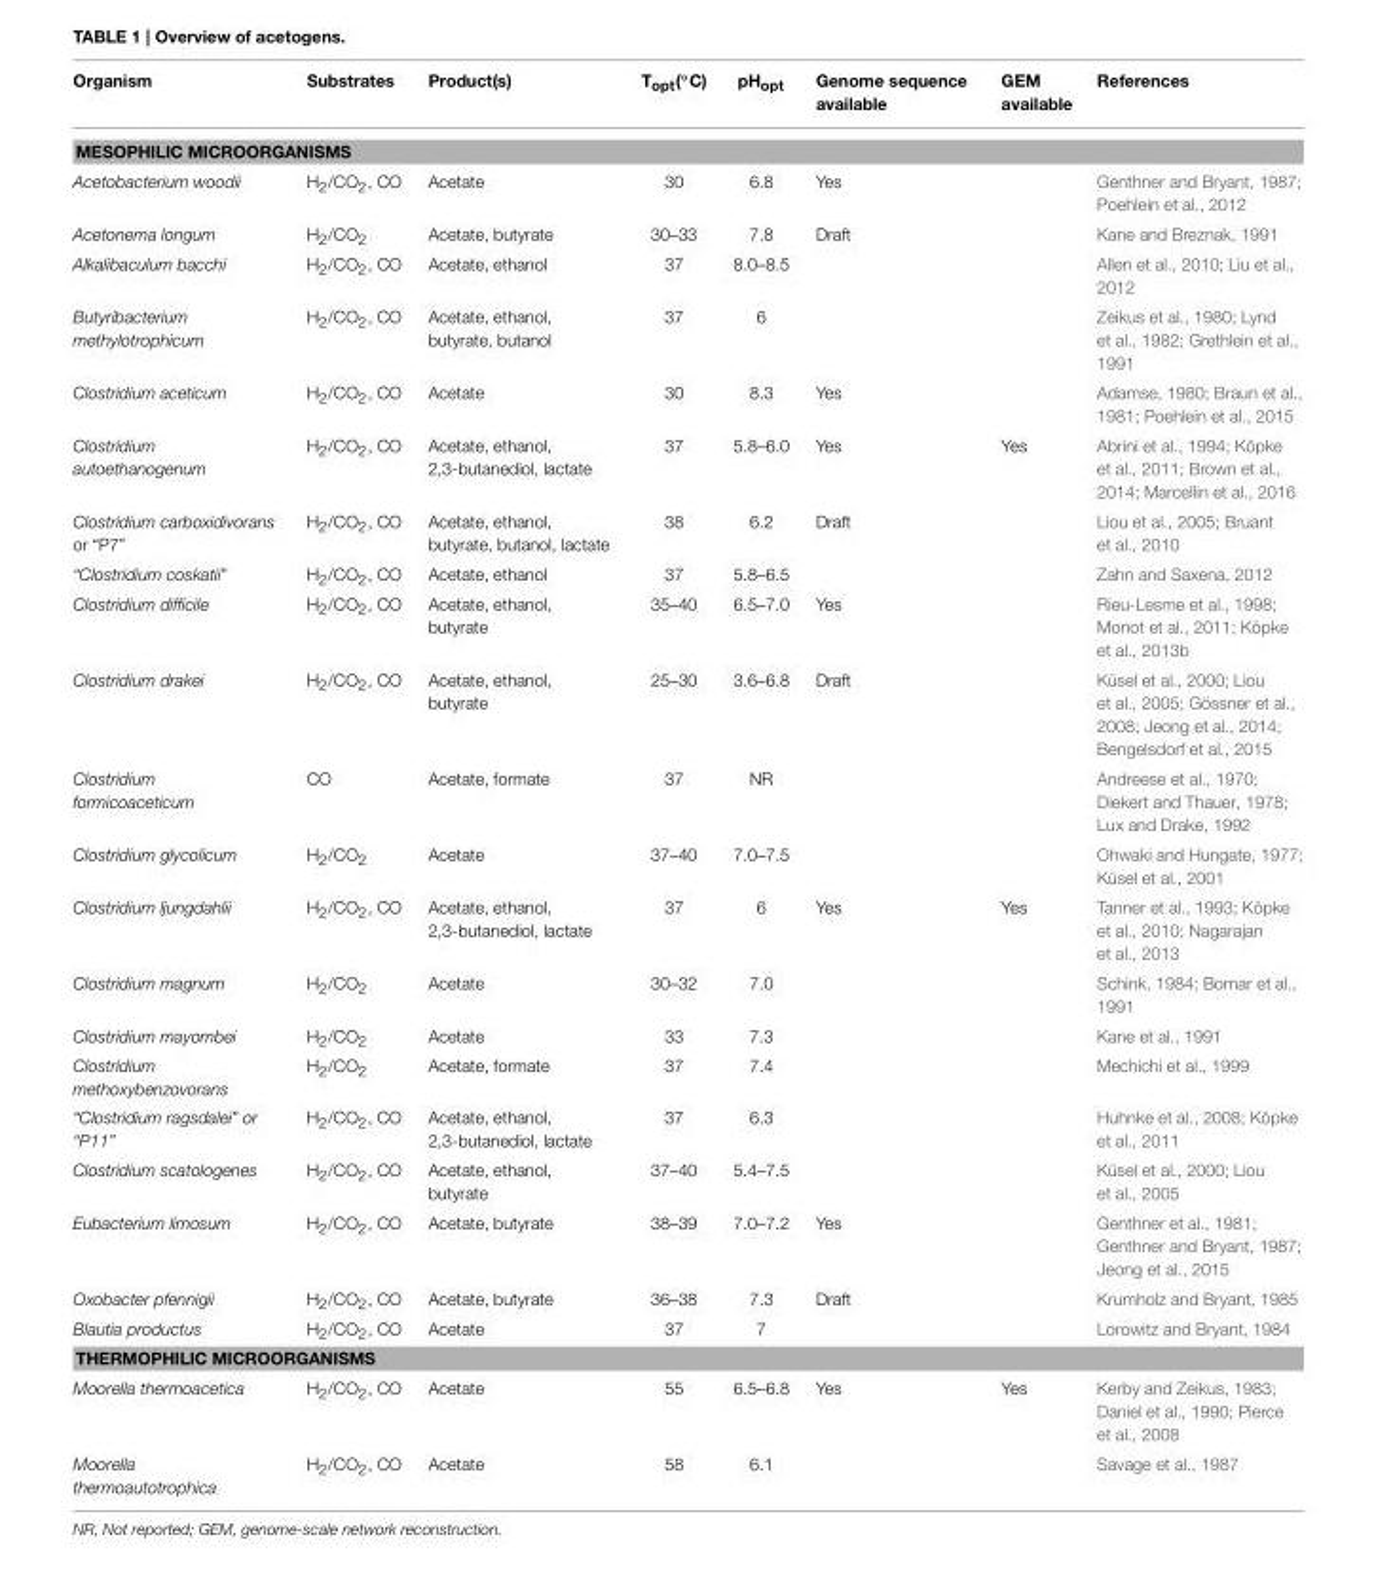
<table><thead><tr><td>Organism</td><td>Substrates</td><td>Product(s)</td><td>Topt(◦C)</td><td>pH<sub>opt</sub></td><td>Genome sequence available</td><td>GEM available</td><td>References</td></tr></thead><tbody><tr><td colspan="8">MESOPHILIC MICROORGANISMS</td></tr><tr><td>Acetobacterium woodii</td><td>H<sub>2</sub>/CO<sub>2</sub>, CO</td><td>Acetate</td><td>30</td><td>6.8</td><td>Yes</td><td></td><td>Genthner and Bryant, 1987; Poehlein et al., 2012</td></tr><tr><td>Acetonema longum</td><td>H<sub>2</sub>/CO<sub>2</sub></td><td>Acetate, butyrate</td><td>30–33</td><td>7.8</td><td>Draft</td><td></td><td>Kane and Breznak, 1991</td></tr><tr><td>Alkalibaculum bacchi</td><td>H<sub>2</sub>/CO<sub>2</sub>, CO</td><td>Acetate, ethanol</td><td>37</td><td>8.0–8.5</td><td></td><td></td><td>Allen et al., 2010; Liu et al., 2012</td></tr><tr><td>Butyribacterium methylotrophicum</td><td>H<sub>2</sub>/CO<sub>2</sub>, CO</td><td>Acetate, ethanol, butyrate, butanol</td><td>37</td><td>6</td><td></td><td></td><td>Zeikus et al., 1980; Lynd et al., 1982; Grethlein et al., 1991</td></tr><tr><td>Clostridium aceticum</td><td>H<sub>2</sub>/CO<sub>2</sub>, CO</td><td>Acetate</td><td>30</td><td>8.3</td><td>Yes</td><td></td><td>Adamse, 1980; Braun et al., 1981; Poehlein et al., 2015</td></tr><tr><td>Clostridium autoethanogenum</td><td>H<sub>2</sub>/CO<sub>2</sub>, CO</td><td>Acetate, ethanol, 2,3-butanediol, lactate</td><td>37</td><td>5.8–6.0</td><td>Yes</td><td>Yes</td><td>Abrini et al., 1994; Köpke et al., 2011; Brown et al., 2014; Marcellin et al., 2016</td></tr><tr><td>Clostridium carboxidivorans or “P7”</td><td>H<sub>2</sub>/CO<sub>2</sub>, CO</td><td>Acetate, ethanol, butyrate, butanol, lactate</td><td>38</td><td>6.2</td><td>Draft</td><td></td><td>Liou et al., 2005; Bruant et al., 2010</td></tr><tr><td>“Clostridium coskatii”</td><td>H<sub>2</sub>/CO<sub>2</sub>, CO</td><td>Acetate, ethanol</td><td>37</td><td>5.8–6.5</td><td></td><td></td><td>Zahn and Saxena, 2012</td></tr><tr><td>Clostridium difficile</td><td>H<sub>2</sub>/CO<sub>2</sub>, CO</td><td>Acetate, ethanol, butyrate</td><td>35–40</td><td>6.5–7.0</td><td>Yes</td><td></td><td>Rieu-Lesme et al., 1998; Monot et al., 2011; Köpke et al., 2013b</td></tr><tr><td>Clostridium drakei</td><td>H<sub>2</sub>/CO<sub>2</sub>, CO</td><td>Acetate, ethanol, butyrate</td><td>25–30</td><td>3.6–6.8</td><td>Draft</td><td></td><td>Küsel et al., 2000; Liou et al., 2005; Gössner et al., 2008; Jeong et al., 2014; Bengelsdorf et al., 2015</td></tr><tr><td>Clostridium formicoaceticum</td><td>CO</td><td>Acetate, formate</td><td>37</td><td>NR</td><td></td><td></td><td>Andreese et al., 1970; Diekert and Thauer, 1978; Lux and Drake, 1992</td></tr><tr><td>Clostridium glycolicum</td><td>H<sub>2</sub>/CO<sub>2</sub></td><td>Acetate</td><td>37–40</td><td>7.0–7.5</td><td></td><td></td><td>Ohwaki and Hungate, 1977; Küsel et al., 2001</td></tr><tr><td>Clostridium ljungdahlii</td><td>H<sub>2</sub>/CO<sub>2</sub>, CO</td><td>Acetate, ethanol, 2,3-butanediol, lactate</td><td>37</td><td>6</td><td>Yes</td><td>Yes</td><td>Tanner et al., 1993; Köpke et al., 2010; Nagarajan et al., 2013</td></tr><tr><td>Clostridium magnum</td><td>H<sub>2</sub>/CO<sub>2</sub></td><td>Acetate</td><td>30–32</td><td>7.0</td><td></td><td></td><td>Schink, 1984; Bomar et al., 1991</td></tr><tr><td>Clostridium mayombei</td><td>H<sub>2</sub>/CO<sub>2</sub></td><td>Acetate</td><td>33</td><td>7.3</td><td></td><td></td><td>Kane et al., 1991</td></tr><tr><td>Clostridium methoxybenzovorans</td><td>H<sub>2</sub>/CO<sub>2</sub></td><td>Acetate, formate</td><td>37</td><td>7.4</td><td></td><td></td><td>Mechichi et al., 1999</td></tr><tr><td>“Clostridium ragsdalei” or “P11”</td><td>H<sub>2</sub>/CO<sub>2</sub>, CO</td><td>Acetate, ethanol, 2,3-butanediol, lactate</td><td>37</td><td>6.3</td><td></td><td></td><td>Huhnke et al., 2008; Köpke et al., 2011</td></tr><tr><td>Clostridium scatologenes</td><td>H<sub>2</sub>/CO<sub>2</sub>, CO</td><td>Acetate, ethanol, butyrate</td><td>37–40</td><td>5.4–7.5</td><td></td><td></td><td>Küsel et al., 2000; Liou et al., 2005</td></tr><tr><td>Eubacterium limosum</td><td>H<sub>2</sub>/CO<sub>2</sub>, CO</td><td>Acetate, butyrate</td><td>38–39</td><td>7.0–7.2</td><td>Yes</td><td></td><td>Genthner et al., 1981; Genthner and Bryant, 1987; Jeong et al., 2015</td></tr><tr><td>Oxobacter pfennigii</td><td>H<sub>2</sub>/CO<sub>2</sub>, CO</td><td>Acetate, butyrate</td><td>36–38</td><td>7.3</td><td>Draft</td><td></td><td>Krumholz and Bryant, 1985</td></tr><tr><td>Blautia productus</td><td>H<sub>2</sub>/CO<sub>2</sub>, CO</td><td>Acetate</td><td>37</td><td>7</td><td></td><td></td><td>Lorowitz and Bryant, 1984</td></tr><tr><td colspan="8">THERMOPHILIC MICROORGANISMS</td></tr><tr><td>Moorella thermoacetica</td><td>H<sub>2</sub>/CO<sub>2</sub>, CO</td><td>Acetate</td><td>55</td><td>6.5–6.8</td><td>Yes</td><td>Yes</td><td>Kerby and Zeikus, 1983; Daniel et al., 1990; Pierce et al., 2008</td></tr><tr><td>Moorella thermoautotrophica</td><td>H<sub>2</sub>/CO<sub>2</sub>, CO</td><td>Acetate</td><td>58</td><td>6.1</td><td></td><td></td><td>Savage et al., 1987</td></tr></tbody></table>